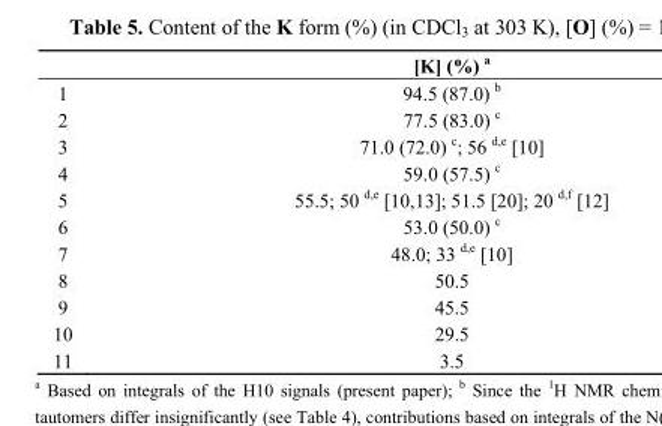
<table><thead><tr><td></td><td>[K] (%) a</td></tr></thead><tbody><tr><td>1</td><td>94.5 (87.0) b</td></tr><tr><td>2</td><td>77.5 (83.0) c</td></tr><tr><td>3</td><td>71.0 (72.0) c; 56 d,e [10]</td></tr><tr><td>4</td><td>59.0 (57.5) c</td></tr><tr><td>5</td><td>55.5; 50 d,e [10,13]; 51.5 [20]; 20 d,f [12]</td></tr><tr><td>6</td><td>53.0 (50.0) c</td></tr><tr><td>7</td><td>48.0; 33 d,e [10]</td></tr><tr><td>8</td><td>50.5</td></tr><tr><td>9</td><td>45.5</td></tr><tr><td>10</td><td>29.5</td></tr><tr><td>11</td><td>3.5</td></tr></tbody></table>